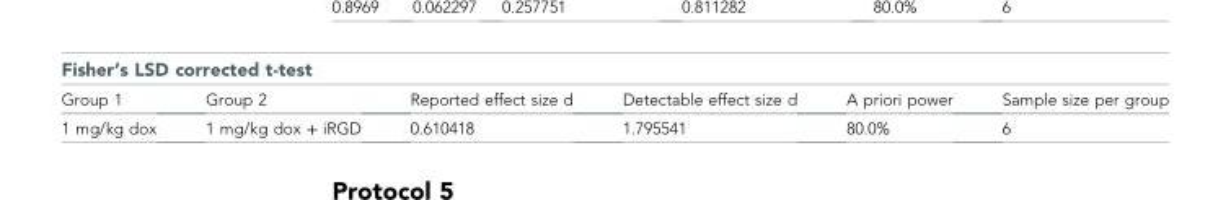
<table><thead><tr><td colspan="6">Fisher’s LSD corrected t-test</td></tr><tr><td>Group 1</td><td>Group 2</td><td>Reported effect size d</td><td>Detectable effect size d</td><td>A priori power</td><td>Sample size per group</td></tr></thead><tbody><tr><td>1 mg/kg dox</td><td>1 mg/kg dox + iRGD</td><td>0.610418</td><td>1.795541</td><td>80.0%</td><td>6</td></tr></tbody></table>